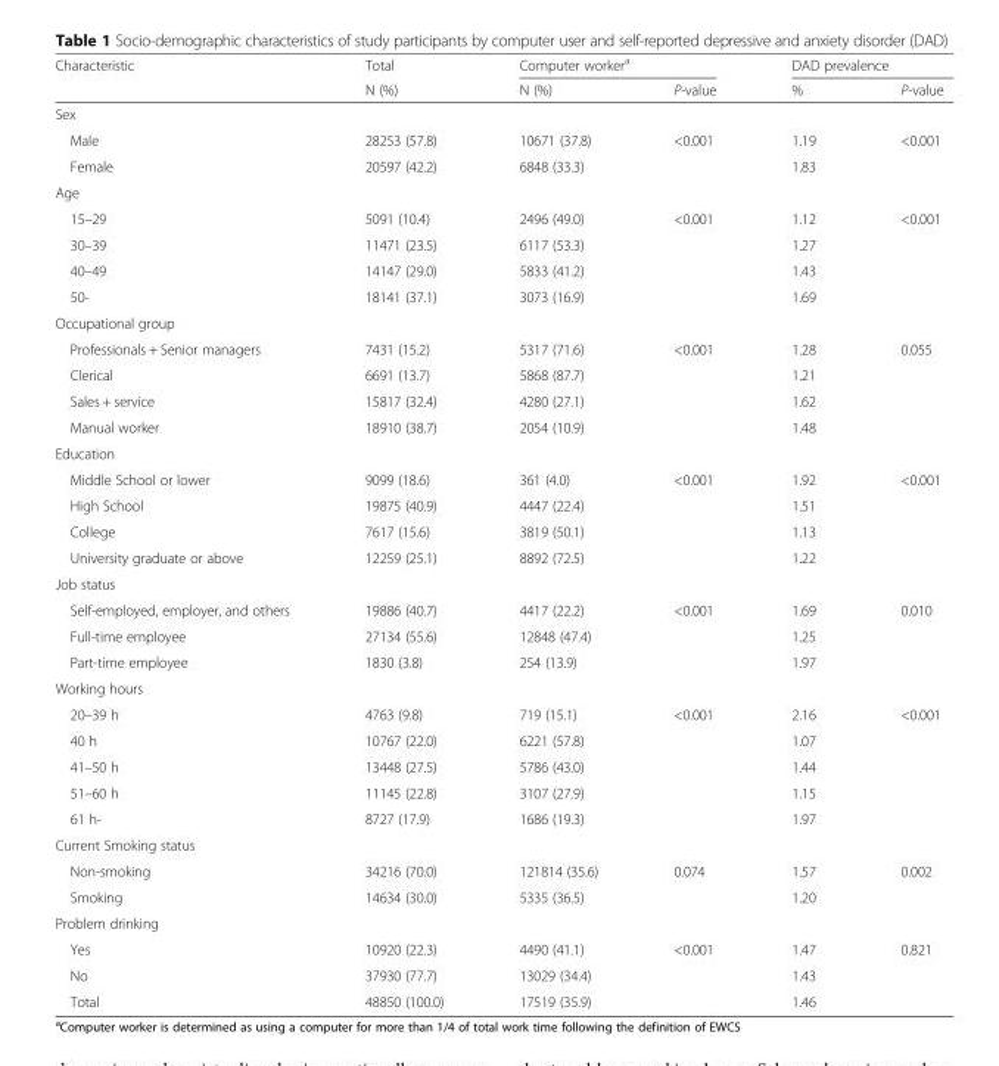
<table><thead><tr><td rowspan="2">Characteristic</td><td rowspan="2">Total N (%)</td><td colspan="2">Computer worker<sup>a</sup></td><td colspan="2">DAD prevalence</td></tr><tr><td>N (%)</td><td>P-value</td><td>%</td><td>P-value</td></tr></thead><tbody><tr><td colspan="6">Sex</td></tr><tr><td>Male</td><td>28253 (57.8)</td><td>10671 (37.8)</td><td>&lt;0.001</td><td>1.19</td><td>&lt;0.001</td></tr><tr><td>Female</td><td>20597 (42.2)</td><td>6848 (33.3)</td><td></td><td>1.83</td><td></td></tr><tr><td colspan="6">Age</td></tr><tr><td>15–29</td><td>5091 (10.4)</td><td>2496 (49.0)</td><td>&lt;0.001</td><td>1.12</td><td>&lt;0.001</td></tr><tr><td>30–39</td><td>11471 (23.5)</td><td>6117 (53.3)</td><td></td><td>1.27</td><td></td></tr><tr><td>40–49</td><td>14147 (29.0)</td><td>5833 (41.2)</td><td></td><td>1.43</td><td></td></tr><tr><td>50-</td><td>18141 (37.1)</td><td>3073 (16.9)</td><td></td><td>1.69</td><td></td></tr><tr><td colspan="6">Occupational group</td></tr><tr><td>Professionals + Senior managers</td><td>7431 (15.2)</td><td>5317 (71.6)</td><td>&lt;0.001</td><td>1.28</td><td>0.055</td></tr><tr><td>Clerical</td><td>6691 (13.7)</td><td>5868 (87.7)</td><td></td><td>1.21</td><td></td></tr><tr><td>Sales + service</td><td>15817 (32.4)</td><td>4280 (27.1)</td><td></td><td>1.62</td><td></td></tr><tr><td>Manual worker</td><td>18910 (38.7)</td><td>2054 (10.9)</td><td></td><td>1.48</td><td></td></tr><tr><td colspan="6">Education</td></tr><tr><td>Middle School or lower</td><td>9099 (18.6)</td><td>361 (4.0)</td><td>&lt;0.001</td><td>1.92</td><td>&lt;0.001</td></tr><tr><td>High School</td><td>19875 (40.9)</td><td>4447 (22.4)</td><td></td><td>1.51</td><td></td></tr><tr><td>College</td><td>7617 (15.6)</td><td>3819 (50.1)</td><td></td><td>1.13</td><td></td></tr><tr><td>University graduate or above</td><td>12259 (25.1)</td><td>8892 (72.5)</td><td></td><td>1.22</td><td></td></tr><tr><td colspan="6">Job status</td></tr><tr><td>Self-employed, employer, and others</td><td>19886 (40.7)</td><td>4417 (22.2)</td><td>&lt;0.001</td><td>1.69</td><td>0.010</td></tr><tr><td>Full-time employee</td><td>27134 (55.6)</td><td>12848 (47.4)</td><td></td><td>1.25</td><td></td></tr><tr><td>Part-time employee</td><td>1830 (3.8)</td><td>254 (13.9)</td><td></td><td>1.97</td><td></td></tr><tr><td colspan="6">Working hours</td></tr><tr><td>20–39 h</td><td>4763 (9.8)</td><td>719 (15.1)</td><td>&lt;0.001</td><td>2.16</td><td>&lt;0.001</td></tr><tr><td>40 h</td><td>10767 (22.0)</td><td>6221 (57.8)</td><td></td><td>1.07</td><td></td></tr><tr><td>41–50 h</td><td>13448 (27.5)</td><td>5786 (43.0)</td><td></td><td>1.44</td><td></td></tr><tr><td>51–60 h</td><td>11145 (22.8)</td><td>3107 (27.9)</td><td></td><td>1.15</td><td></td></tr><tr><td>61 h-</td><td>8727 (17.9)</td><td>1686 (19.3)</td><td></td><td>1.97</td><td></td></tr><tr><td colspan="6">Current Smoking status</td></tr><tr><td>Non-smoking</td><td>34216 (70.0)</td><td>121814 (35.6)</td><td>0.074</td><td>1.57</td><td>0.002</td></tr><tr><td>Smoking</td><td>14634 (30.0)</td><td>5335 (36.5)</td><td></td><td>1.20</td><td></td></tr><tr><td colspan="6">Problem drinking</td></tr><tr><td>Yes</td><td>10920 (22.3)</td><td>4490 (41.1)</td><td>&lt;0.001</td><td>1.47</td><td>0.821</td></tr><tr><td>No</td><td>37930 (77.7)</td><td>13029 (34.4)</td><td></td><td>1.43</td><td></td></tr><tr><td>Total</td><td>48850 (100.0)</td><td>17519 (35.9)</td><td></td><td>1.46</td><td></td></tr></tbody></table>